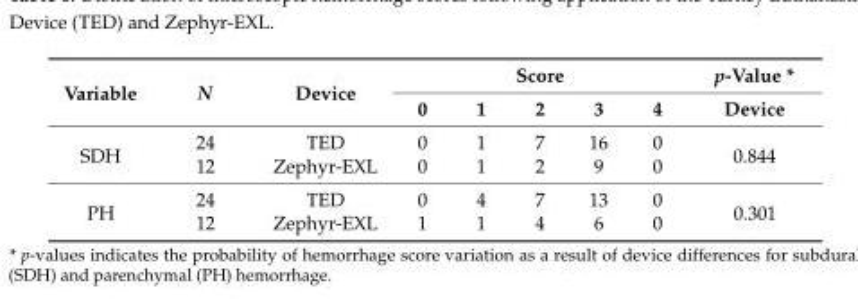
<table><thead><tr><td rowspan="2">Variable</td><td rowspan="2">N</td><td rowspan="2">Device</td><td colspan="5">Score</td><td rowspan="2">p-Value * Device</td></tr><tr><td>0</td><td>1</td><td>2</td><td>3</td><td>4</td></tr></thead><tbody><tr><td rowspan="2">SDH</td><td>24</td><td>TED</td><td>0</td><td>1</td><td>7</td><td>16</td><td>0</td><td rowspan="2">0.844</td></tr><tr><td>12</td><td>Zephyr-EXL</td><td>0</td><td>1</td><td>2</td><td>9</td><td>0</td></tr><tr><td rowspan="2">PH</td><td>24</td><td>TED</td><td>0</td><td>4</td><td>7</td><td>13</td><td>0</td><td rowspan="2">0.301</td></tr><tr><td>12</td><td>Zephyr-EXL</td><td>1</td><td>1</td><td>4</td><td>6</td><td>0</td></tr></tbody></table>